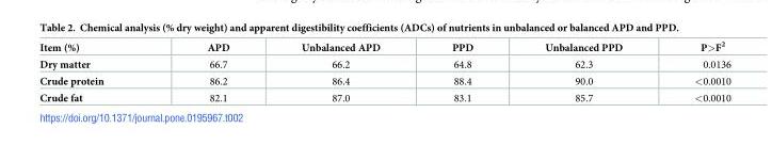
<table><thead><tr><td>Item (%)</td><td>APD</td><td>Unbalanced APD</td><td>PPD</td><td>Unbalanced PPD</td><td>P&gt;F<sup>2</sup></td></tr></thead><tbody><tr><td>Dry matter</td><td>66.7</td><td>66.2</td><td>64.8</td><td>62.3</td><td>0.0136</td></tr><tr><td>Crude protein</td><td>86.2</td><td>86.4</td><td>88.4</td><td>90.0</td><td>&lt;0.0010</td></tr><tr><td>Crude fat</td><td>82.1</td><td>87.0</td><td>83.1</td><td>85.7</td><td>&lt;0.0010</td></tr></tbody></table>